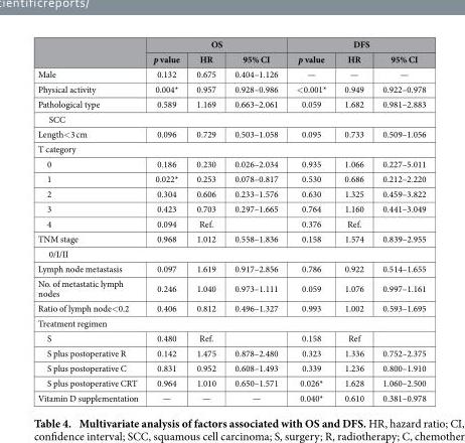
<table><thead><tr><td rowspan="2"></td><td colspan="3">OS</td><td colspan="3">DFS</td></tr><tr><td>p value</td><td>HR</td><td>95% CI</td><td>p value</td><td>HR</td><td>95% CI</td></tr></thead><tbody><tr><td>Male</td><td>0.132</td><td>0.675</td><td>0.404–1.126</td><td>—</td><td>—</td><td>—</td></tr><tr><td>Physical activity</td><td>0.004*</td><td>0.957</td><td>0.928–0.986</td><td>&lt; 0.001*</td><td>0.949</td><td>0.922–0.978</td></tr><tr><td>Pathological type</td><td>0.589</td><td>1.169</td><td>0.663–2.061</td><td>0.059</td><td>1.682</td><td>0.981–2.883</td></tr><tr><td colspan="7">SCC</td></tr><tr><td>Length&lt; 3 cm</td><td>0.096</td><td>0.729</td><td>0.503–1.058</td><td>0.095</td><td>0.733</td><td>0.509–1.056</td></tr><tr><td colspan="7">T category</td></tr><tr><td>0</td><td>0.186</td><td>0.230</td><td>0.026–2.034</td><td>0.935</td><td>1.066</td><td>0.227–5.011</td></tr><tr><td>1</td><td>0.022*</td><td>0.253</td><td>0.078–0.817</td><td>0.530</td><td>0.686</td><td>0.212–2.220</td></tr><tr><td>2</td><td>0.304</td><td>0.606</td><td>0.233–1.576</td><td>0.630</td><td>1.325</td><td>0.459–3.822</td></tr><tr><td>3</td><td>0.423</td><td>0.703</td><td>0.297–1.665</td><td>0.764</td><td>1.160</td><td>0.441–3.049</td></tr><tr><td>4</td><td>0.094</td><td>Ref.</td><td></td><td>0.376</td><td>Ref.</td><td></td></tr><tr><td>TNM stage</td><td>0.968</td><td>1.012</td><td>0.558–1.836</td><td>0.158</td><td>1.574</td><td>0.839–2.955</td></tr><tr><td colspan="7">0/I/II</td></tr><tr><td>Lymph node metastasis</td><td>0.097</td><td>1.619</td><td>0.917–2.856</td><td>0.786</td><td>0.922</td><td>0.514–1.655</td></tr><tr><td>No. of metastatic lymph nodes</td><td>0.246</td><td>1.040</td><td>0.973–1.111</td><td>0.059</td><td>1.076</td><td>0.997–1.161</td></tr><tr><td>Ratio of lymph node&lt; 0.2</td><td>0.406</td><td>0.812</td><td>0.496–1.327</td><td>0.993</td><td>1.002</td><td>0.593–1.695</td></tr><tr><td colspan="7">Treatment regimen</td></tr><tr><td>S</td><td>0.480</td><td>Ref.</td><td></td><td>0.158</td><td>Ref</td><td></td></tr><tr><td>S plus postoperative R</td><td>0.142</td><td>1.475</td><td>0.878–2.480</td><td>0.323</td><td>1.336</td><td>0.752–2.375</td></tr><tr><td>S plus postoperative C</td><td>0.831</td><td>0.952</td><td>0.608–1.493</td><td>0.339</td><td>1.236</td><td>0.800–1.910</td></tr><tr><td>S plus postoperative CRT</td><td>0.964</td><td>1.010</td><td>0.650–1.571</td><td>0.026*</td><td>1.628</td><td>1.060–2.500</td></tr><tr><td>Vitamin D supplementation</td><td>—</td><td>—</td><td>—</td><td>0.040*</td><td>0.610</td><td>0.381–0.978</td></tr></tbody></table>